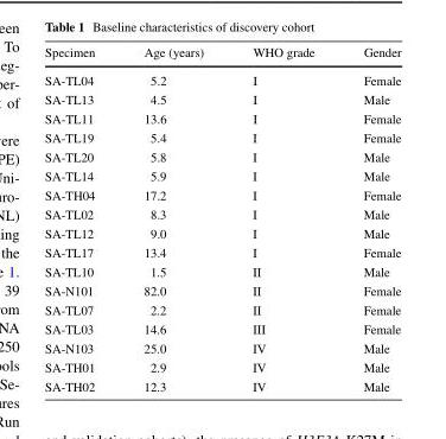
<table><thead><tr><td>Specimen</td><td>Age (years)</td><td>WHO grade</td><td>Gender</td></tr></thead><tbody><tr><td>SA-TL04</td><td>5.2</td><td>I</td><td>Female</td></tr><tr><td>SA-TL13</td><td>4.5</td><td>I</td><td>Male</td></tr><tr><td>SA-TL11</td><td>13.6</td><td>I</td><td>Female</td></tr><tr><td>SA-TL19</td><td>5.4</td><td>I</td><td>Female</td></tr><tr><td>SA-TL20</td><td>5.8</td><td>I</td><td>Male</td></tr><tr><td>SA-TL14</td><td>5.9</td><td>I</td><td>Male</td></tr><tr><td>SA-TH04</td><td>17.2</td><td>I</td><td>Female</td></tr><tr><td>SA-TL02</td><td>8.3</td><td>I</td><td>Male</td></tr><tr><td>SA-TL12</td><td>9.0</td><td>I</td><td>Male</td></tr><tr><td>SA-TL17</td><td>13.4</td><td>I</td><td>Female</td></tr><tr><td>SA-TL10</td><td>1.5</td><td>II</td><td>Male</td></tr><tr><td>SA-N101</td><td>82.0</td><td>II</td><td>Female</td></tr><tr><td>SA-TL07</td><td>2.2</td><td>II</td><td>Female</td></tr><tr><td>SA-TL03</td><td>14.6</td><td>III</td><td>Female</td></tr><tr><td>SA-N103</td><td>25.0</td><td>IV</td><td>Male</td></tr><tr><td>SA-TH01</td><td>2.9</td><td>IV</td><td>Male</td></tr><tr><td>SA-TH02</td><td>12.3</td><td>IV</td><td>Male</td></tr></tbody></table>